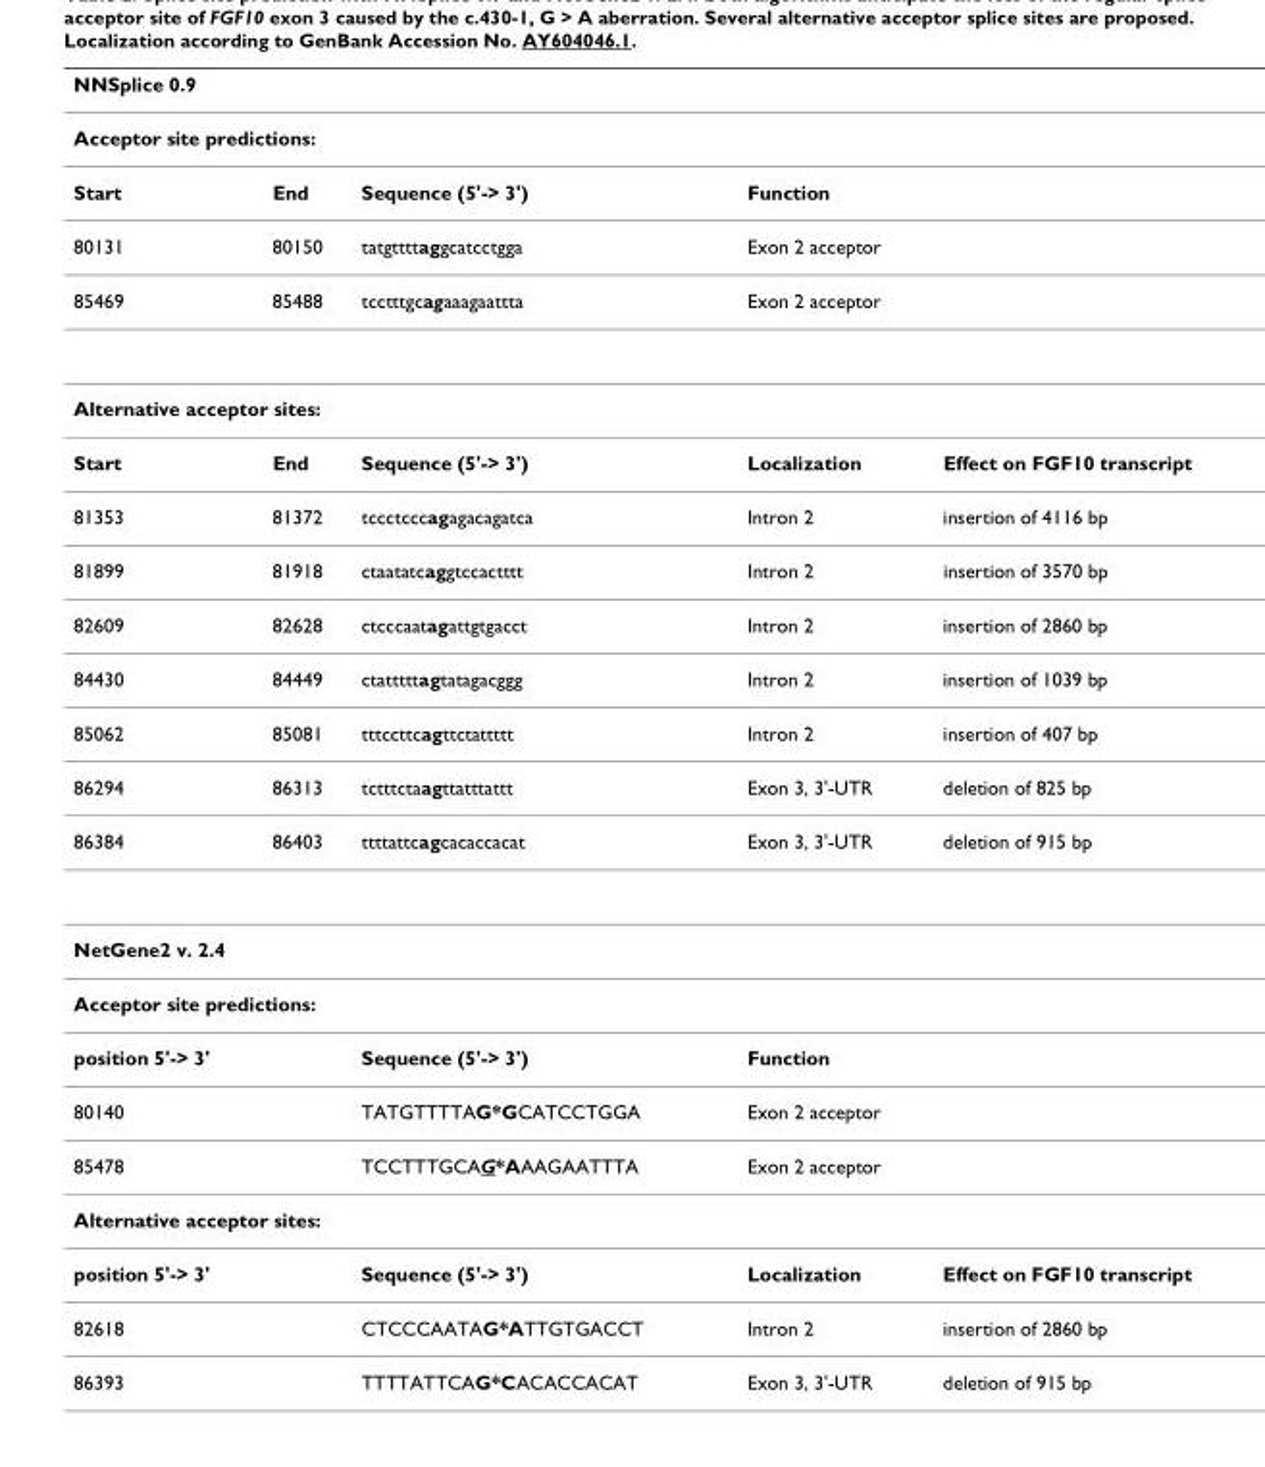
<table><thead><tr><td rowspan="2" colspan="5">NNSplice 0.9 Acceptor site predictions:</td></tr><tr></tr><tr><td>Start</td><td>End</td><td>Sequence (5&#x27;-&gt; 3&#x27;)</td><td>Function</td><td></td></tr></thead><tbody><tr><td>80131</td><td>80150</td><td>tatgttttaggcatcctgga</td><td>Exon 2 acceptor</td><td></td></tr><tr><td>85469</td><td>85488</td><td>tcctttgcagaaagaattta</td><td>Exon 2 acceptor</td><td></td></tr><tr><td colspan="5">Alternative acceptor sites:</td></tr><tr><td>Start</td><td>End</td><td>Sequence (5&#x27;-&gt; 3&#x27;)</td><td>Localization</td><td>Effect on FGF10 transcript</td></tr><tr><td>81353</td><td>81372</td><td>tccctcccagagacagatca</td><td>Intron 2</td><td>insertion of 4116 bp</td></tr><tr><td>81899</td><td>81918</td><td>ctaatatcaggtccactttt</td><td>Intron 2</td><td>insertion of 3570 bp</td></tr><tr><td>82609</td><td>82628</td><td>ctcccaatagattgtgacct</td><td>Intron 2</td><td>insertion of 2860 bp</td></tr><tr><td>84430</td><td>84449</td><td>ctatttttagtatagacggg</td><td>Intron 2</td><td>insertion of 1039 bp</td></tr><tr><td>85062</td><td>85081</td><td>tttccttcagttctattttt</td><td>Intron 2</td><td>insertion of 407 bp</td></tr><tr><td>86294</td><td>86313</td><td>tctttctaagttatttattt</td><td>Exon 3, 3&#x27;-UTR</td><td>deletion of 825 bp</td></tr><tr><td>86384</td><td>86403</td><td>ttttattcagcacaccacat</td><td>Exon 3, 3&#x27;-UTR</td><td>deletion of 915 bp</td></tr><tr><td colspan="5">NetGene2 v. 2.4</td></tr><tr><td colspan="5">Acceptor site predictions:</td></tr><tr><td>position 5&#x27;-&gt; 3&#x27;</td><td></td><td>Sequence (5&#x27;-&gt; 3&#x27;)</td><td>Function</td><td></td></tr><tr><td>80140</td><td></td><td>TATGTTTTAG*GCATCCTGGA</td><td>Exon 2 acceptor</td><td></td></tr><tr><td>85478</td><td></td><td>TCCTTTGCAG*AAAGAATTTA</td><td>Exon 2 acceptor</td><td></td></tr><tr><td colspan="5">Alternative acceptor sites:</td></tr><tr><td>position 5&#x27;-&gt; 3&#x27;</td><td></td><td>Sequence (5&#x27;-&gt; 3&#x27;)</td><td>Localization</td><td>Effect on FGF10 transcript</td></tr><tr><td>82618</td><td></td><td>CTCCCAATAG*ATTGTGACCT</td><td>Intron 2</td><td>insertion of 2860 bp</td></tr><tr><td>86393</td><td></td><td>TTTTATTCAG*CACACCACAT</td><td>Exon 3, 3&#x27;-UTR</td><td>deletion of 915 bp</td></tr></tbody></table>